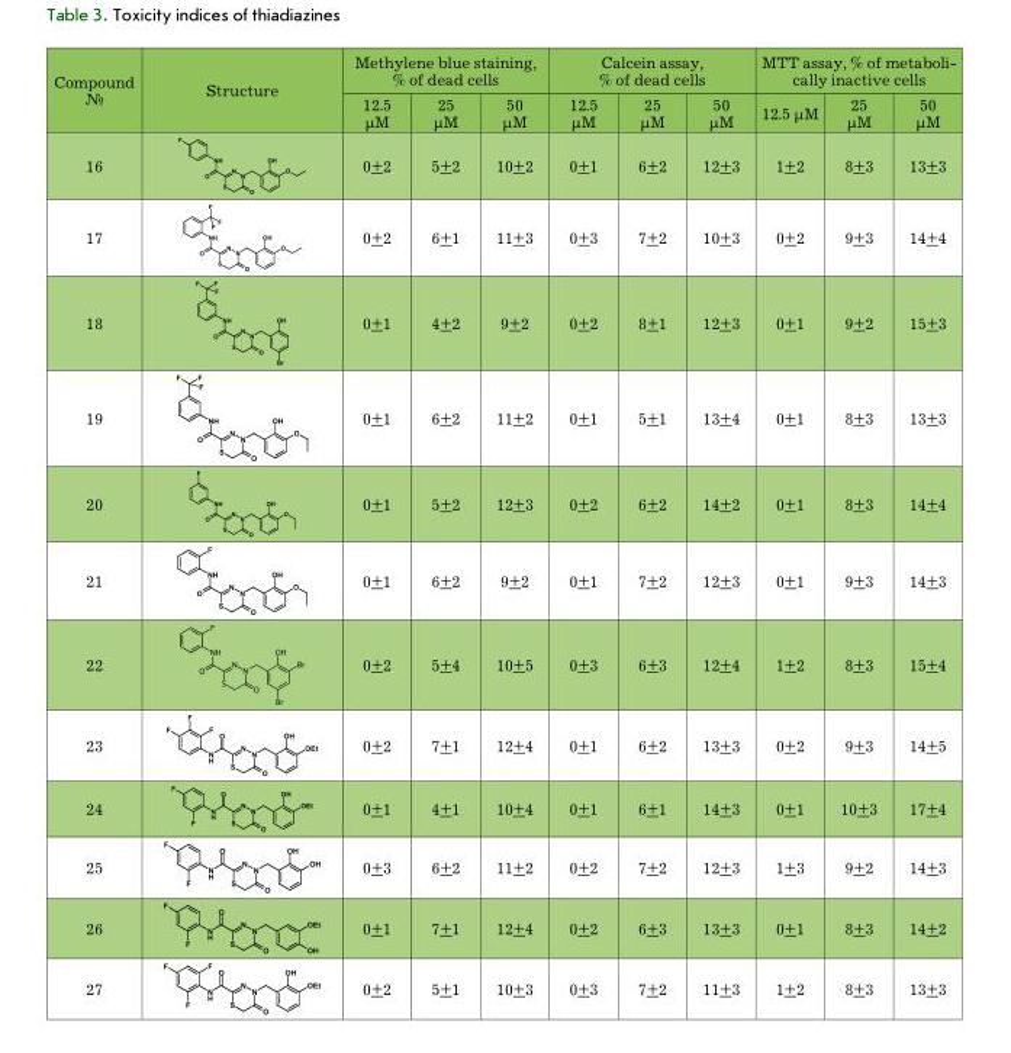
<table><thead><tr><td rowspan="2">compound №</td><td rowspan="2">Structure</td><td colspan="3">Methylene blue staining, % of dead cells</td><td colspan="3">calcein assay, % of dead cells</td><td colspan="3">Mtt assay, % of metaboli- cally inactive cells</td></tr><tr><td>12.5 µM</td><td>25 µM</td><td>50 µM</td><td>12.5 µM</td><td>25 µM</td><td>50 µM</td><td>12.5 µM</td><td>25 µM</td><td>50 µM</td></tr></thead><tbody><tr><td>16</td><td></td><td>0+2</td><td>5+2</td><td>10+2</td><td>0+1</td><td>6+2</td><td>12+3</td><td>1+2</td><td>8+3</td><td>13+3</td></tr><tr><td>17</td><td></td><td>0+2</td><td>6+1</td><td>11+3</td><td>0+3</td><td>7+2</td><td>10+3</td><td>0+2</td><td>9+3</td><td>14+4</td></tr><tr><td>18</td><td></td><td>0+1</td><td>4+2</td><td>9+2</td><td>0+2</td><td>8+1</td><td>12+3</td><td>0+1</td><td>9+2</td><td>15+3</td></tr><tr><td>19</td><td></td><td>0+1</td><td>6+2</td><td>11+2</td><td>0+1</td><td>5+1</td><td>13+4</td><td>0+1</td><td>8+3</td><td>13+3</td></tr><tr><td>20</td><td></td><td>0+1</td><td>5+2</td><td>12+3</td><td>0+2</td><td>6+2</td><td>14+2</td><td>0+1</td><td>8+3</td><td>14+4</td></tr><tr><td>21</td><td></td><td>0+1</td><td>6+2</td><td>9+2</td><td>0+1</td><td>7+2</td><td>12+3</td><td>0+1</td><td>9+3</td><td>14+3</td></tr><tr><td>22</td><td></td><td>0+2</td><td>5+4</td><td>10+5</td><td>0+3</td><td>6+3</td><td>12+4</td><td>1+2</td><td>8+3</td><td>15+4</td></tr><tr><td>23</td><td></td><td>0+2</td><td>7+1</td><td>12+4</td><td>0+1</td><td>6+2</td><td>13+3</td><td>0+2</td><td>9+3</td><td>14+5</td></tr><tr><td>24</td><td></td><td>0+1</td><td>4+1</td><td>10+4</td><td>0+1</td><td>6+1</td><td>14+3</td><td>0+1</td><td>10+3</td><td>17+4</td></tr><tr><td>25</td><td></td><td>0+3</td><td>6+2</td><td>11+2</td><td>0+2</td><td>7+2</td><td>12+3</td><td>1+3</td><td>9+2</td><td>14+3</td></tr><tr><td>26</td><td></td><td>0+1</td><td>7+1</td><td>12+4</td><td>0+2</td><td>6+3</td><td>13+3</td><td>0+1</td><td>8+3</td><td>14+2</td></tr><tr><td>27</td><td></td><td>0+2</td><td>5+1</td><td>10+3</td><td>0+3</td><td>7+2</td><td>11+3</td><td>1+2</td><td>8+3</td><td>13+3</td></tr></tbody></table>